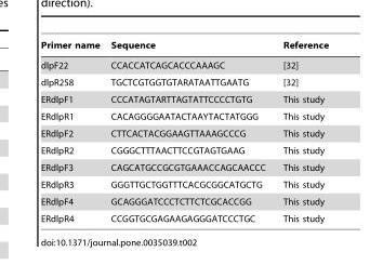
<table><thead><tr><td>Primer name</td><td>Sequence</td><td>Reference</td></tr></thead><tbody><tr><td>dlpF22</td><td>CCACCATCAGCACCCAAAGC</td><td>[32]</td></tr><tr><td>dlpR258</td><td>TGCTCGTGGTGTARATAATTGAATG</td><td>[32]</td></tr><tr><td>ERdlpF1</td><td>CCCATAGTARTTAGTATTCCCCTGTG</td><td>This study</td></tr><tr><td>ERdlpR1</td><td>CACAGGGGAATACTAAYTACTATGGG</td><td>This study</td></tr><tr><td>ERdlpF2</td><td>CTTCACTACGGAAGTTAAAGCCCG</td><td>This study</td></tr><tr><td>ERdlpR2</td><td>CGGGCTTTAACTTCCGTAGTGAAG</td><td>This study</td></tr><tr><td>ERdlpF3</td><td>CAGCATGCCGCGTGAAACCAGCAACCC</td><td>This study</td></tr><tr><td>ERdlpR3</td><td>GGGTTGCTGGTTTCACGCGGCATGCTG</td><td>This study</td></tr><tr><td>ERdlpF4</td><td>GCAGGGATCCCTCTTCTCGCACCGG</td><td>This study</td></tr><tr><td>ERdlpR4</td><td>CCGGTGCGAGAAGAGGGATCCCTGC</td><td>This study</td></tr></tbody></table>